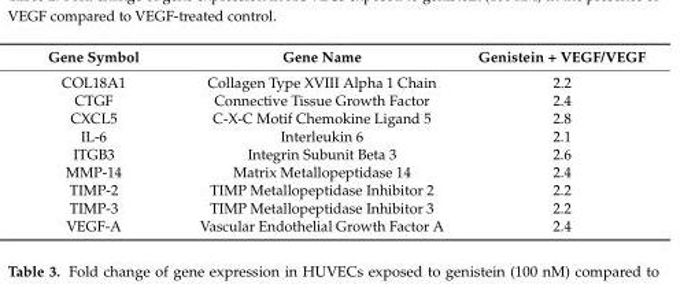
<table><thead><tr><td>Gene Symbol</td><td>Gene Name</td><td>Genistein + VEGF/VEGF</td></tr></thead><tbody><tr><td>COL18A1</td><td>Collagen Type XVIII Alpha 1 Chain</td><td>2.2</td></tr><tr><td>CTGF</td><td>Connective Tissue Growth Factor</td><td>2.4</td></tr><tr><td>CXCL5</td><td>C-X-C Motif Chemokine Ligand 5</td><td>2.8</td></tr><tr><td>IL-6</td><td>Interleukin 6</td><td>2.1</td></tr><tr><td>ITGB3</td><td>Integrin Subunit Beta 3</td><td>2.6</td></tr><tr><td>MMP-14</td><td>Matrix Metallopeptidase 14</td><td>2.4</td></tr><tr><td>TIMP-2</td><td>TIMP Metallopeptidase Inhibitor 2</td><td>2.2</td></tr><tr><td>TIMP-3</td><td>TIMP Metallopeptidase Inhibitor 3</td><td>2.2</td></tr><tr><td>VEGF-A</td><td>Vascular Endothelial Growth Factor A</td><td>2.4</td></tr></tbody></table>